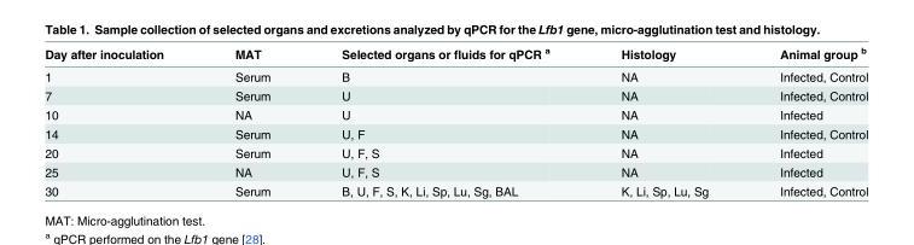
<table><thead><tr><td>Day after inoculation</td><td>MAT</td><td>Selected organs or fluids for qPCR <sup>a</sup></td><td>Histology</td><td>Animal group <sup>b</sup></td></tr></thead><tbody><tr><td>1</td><td>Serum</td><td>B</td><td>NA</td><td>Infected, Control</td></tr><tr><td>7</td><td>Serum</td><td>U</td><td>NA</td><td>Infected, Control</td></tr><tr><td>10</td><td>NA</td><td>U</td><td>NA</td><td>Infected</td></tr><tr><td>14</td><td>Serum</td><td>U, F</td><td>NA</td><td>Infected, Control</td></tr><tr><td>20</td><td>Serum</td><td>U, F, S</td><td>NA</td><td>Infected</td></tr><tr><td>25</td><td>NA</td><td>U, F, S</td><td>NA</td><td>Infected</td></tr><tr><td>30</td><td>Serum</td><td>B, U, F, S, K, Li, Sp, Lu, Sg, BAL</td><td>K, Li, Sp, Lu, Sg</td><td>Infected, Control</td></tr></tbody></table>